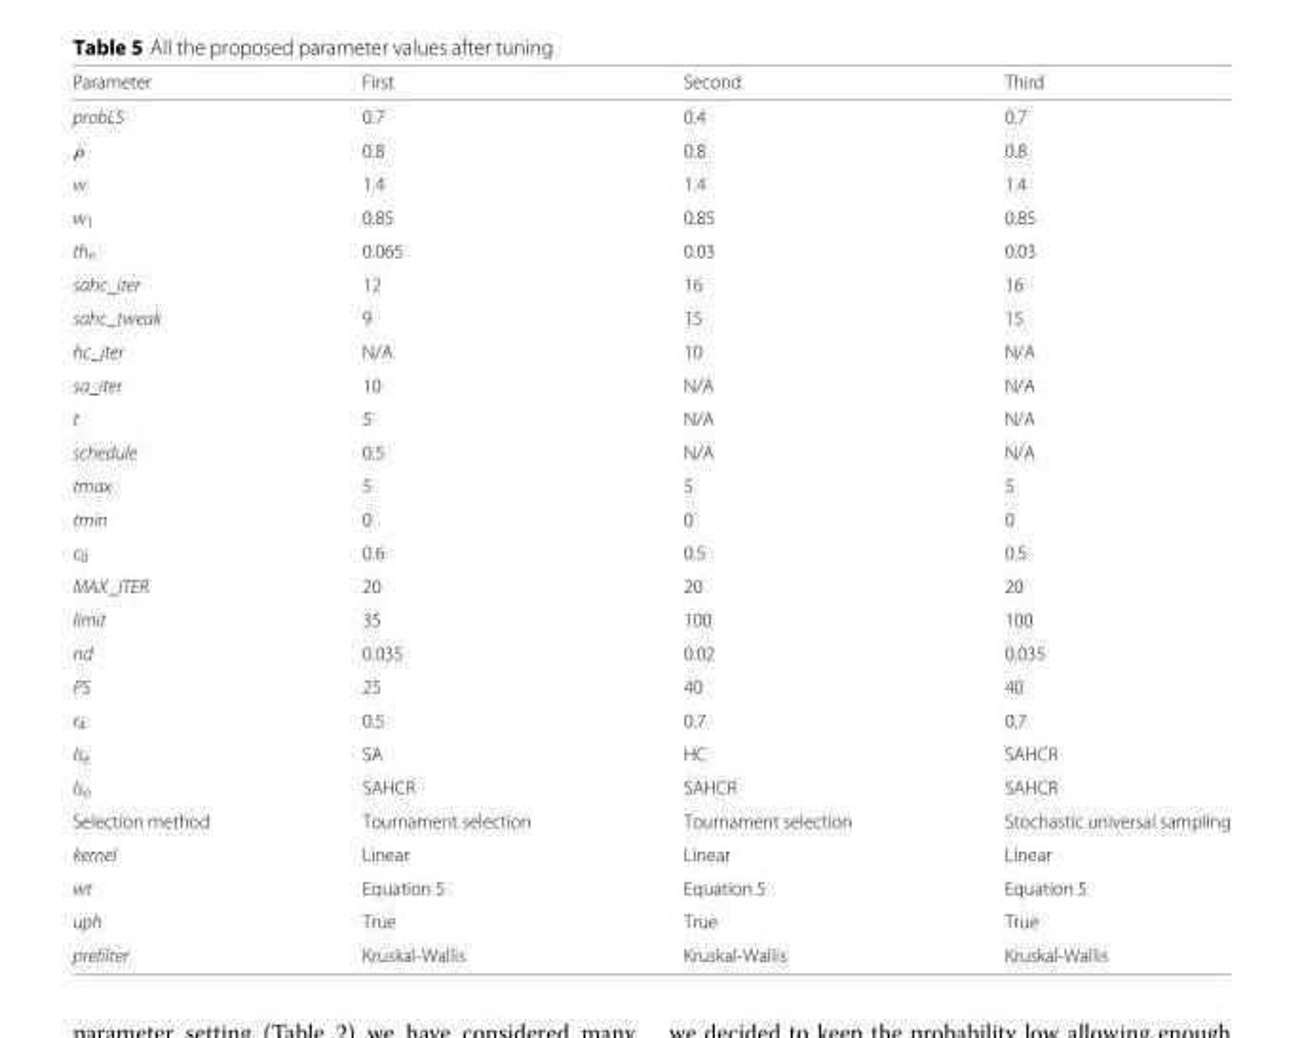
<table><thead><tr><td>Parameter</td><td>First</td><td>Second</td><td>Third</td></tr></thead><tbody><tr><td>probLS</td><td>0.7</td><td>0.4</td><td>0.7</td></tr><tr><td>ρ</td><td>0.8</td><td>0.8</td><td>0.8</td></tr><tr><td>w</td><td>1.4</td><td>1.4</td><td>1.4</td></tr><tr><td>w<sub>1</sub></td><td>0.85</td><td>0.85</td><td>0.85</td></tr><tr><td>th<sub>n</sub></td><td>0.065</td><td>0.03</td><td>0.03</td></tr><tr><td>sahc_iter</td><td>12</td><td>16</td><td>16</td></tr><tr><td>sahc_tweak</td><td>9</td><td>15</td><td>15</td></tr><tr><td>hc_iter</td><td>N/A</td><td>10</td><td>N/A</td></tr><tr><td>sa_iter</td><td>10</td><td>N/A</td><td>N/A</td></tr><tr><td>t</td><td>5</td><td>N/A</td><td>N/A</td></tr><tr><td>schedule</td><td>0.5</td><td>N/A</td><td>N/A</td></tr><tr><td>tmax</td><td>5</td><td>5</td><td>5</td></tr><tr><td>tmin</td><td>0</td><td>0</td><td>0</td></tr><tr><td>c<sub>0</sub></td><td>0.6</td><td>0.5</td><td>0.5</td></tr><tr><td>MAX_ITER</td><td>20</td><td>20</td><td>20</td></tr><tr><td>limit</td><td>35</td><td>100</td><td>100</td></tr><tr><td>nd</td><td>0.035</td><td>0.02</td><td>0.035</td></tr><tr><td>PS</td><td>25</td><td>40</td><td>40</td></tr><tr><td>r<sub>4</sub></td><td>0.5</td><td>0.7</td><td>0.7</td></tr><tr><td>ls<sub>e</sub></td><td>SA</td><td>HC</td><td>SAHCR</td></tr><tr><td>ls<sub>o</sub></td><td>SAHCR</td><td>SAHCR</td><td>SAHCR</td></tr><tr><td>Selection method</td><td>Tournament selection</td><td>Tournament selection</td><td>Stochastic universal sampling</td></tr><tr><td>kernel</td><td>Linear</td><td>Linear</td><td>Linear</td></tr><tr><td>wt</td><td>Equation 5</td><td>Equation 5</td><td>Equation 5</td></tr><tr><td>uph</td><td>True</td><td>True</td><td>True</td></tr><tr><td>prefilter</td><td>Kruskal-Wallis</td><td>Kruskal-Wallis</td><td>Kruskal-Wallis</td></tr></tbody></table>